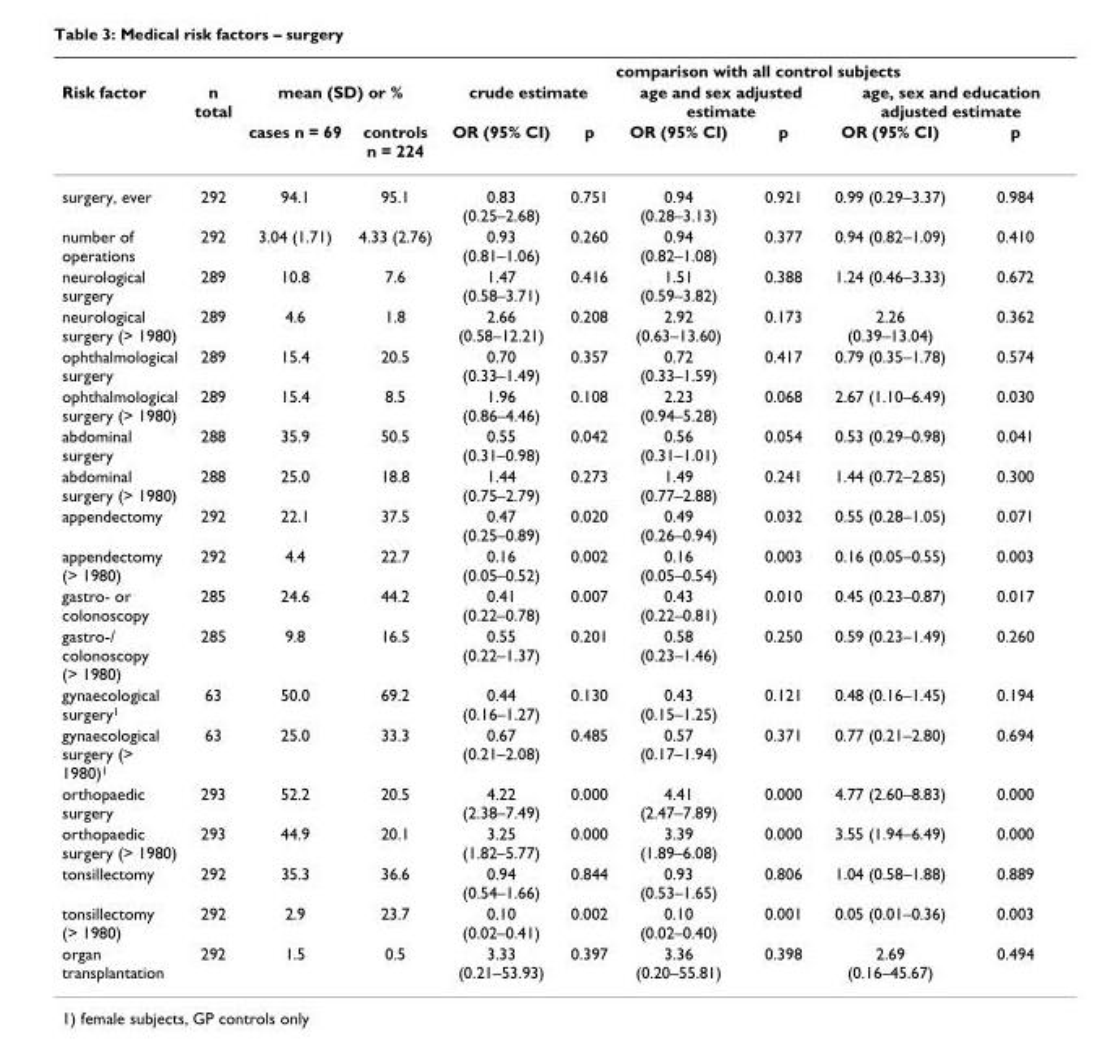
<table><thead><tr><td rowspan="3">Risk factor</td><td rowspan="3">n total</td><td></td><td></td><td colspan="6">comparison with all control subjects</td></tr><tr><td colspan="2">mean (SD) or %</td><td colspan="2">crude estimate</td><td colspan="2">age and sex adjusted estimate</td><td colspan="2">age, sex and education adjusted estimate</td></tr><tr><td>cases n = 69</td><td>controls n = 224</td><td>OR (95% CI)</td><td>p</td><td>OR (95% CI)</td><td>p</td><td>OR (95% CI)</td><td>p</td></tr></thead><tbody><tr><td>surgery, ever</td><td>292</td><td>94.1</td><td>95.1</td><td>0.83 (0.25–2.68)</td><td>0.751</td><td>0.94 (0.28–3.13)</td><td>0.921</td><td>0.99 (0.29–3.37)</td><td>0.984</td></tr><tr><td>number of operations</td><td>292</td><td>3.04 (1.71)</td><td>4.33 (2.76)</td><td>0.93 (0.81–1.06)</td><td>0.260</td><td>0.94 (0.82–1.08)</td><td>0.377</td><td>0.94 (0.82–1.09)</td><td>0.410</td></tr><tr><td>neurological surgery</td><td>289</td><td>10.8</td><td>7.6</td><td>1.47 (0.58–3.71)</td><td>0.416</td><td>1.51 (0.59–3.82)</td><td>0.388</td><td>1.24 (0.46–3.33)</td><td>0.672</td></tr><tr><td>neurological surgery (&gt; 1980)</td><td>289</td><td>4.6</td><td>1.8</td><td>2.66 (0.58–12.21)</td><td>0.208</td><td>2.92 (0.63–13.60)</td><td>0.173</td><td>2.26 (0.39–13.04)</td><td>0.362</td></tr><tr><td>ophthalmological surgery</td><td>289</td><td>15.4</td><td>20.5</td><td>0.70 (0.33–1.49)</td><td>0.357</td><td>0.72 (0.33–1.59)</td><td>0.417</td><td>0.79 (0.35–1.78)</td><td>0.574</td></tr><tr><td>ophthalmological surgery (&gt; 1980)</td><td>289</td><td>15.4</td><td>8.5</td><td>1.96 (0.86–4.46)</td><td>0.108</td><td>2.23 (0.94–5.28)</td><td>0.068</td><td>2.67 (1.10–6.49)</td><td>0.030</td></tr><tr><td>abdominal surgery</td><td>288</td><td>35.9</td><td>50.5</td><td>0.55 (0.31–0.98)</td><td>0.042</td><td>0.56 (0.31–1.01)</td><td>0.054</td><td>0.53 (0.29–0.98)</td><td>0.041</td></tr><tr><td>abdominal surgery (&gt; 1980)</td><td>288</td><td>25.0</td><td>18.8</td><td>1.44 (0.75–2.79)</td><td>0.273</td><td>1.49 (0.77–2.88)</td><td>0.241</td><td>1.44 (0.72–2.85)</td><td>0.300</td></tr><tr><td>appendectomy</td><td>292</td><td>22.1</td><td>37.5</td><td>0.47 (0.25–0.89)</td><td>0.020</td><td>0.49 (0.26–0.94)</td><td>0.032</td><td>0.55 (0.28–1.05)</td><td>0.071</td></tr><tr><td>appendectomy (&gt; 1980)</td><td>292</td><td>4.4</td><td>22.7</td><td>0.16 (0.05–0.52)</td><td>0.002</td><td>0.16 (0.05–0.54)</td><td>0.003</td><td>0.16 (0.05–0.55)</td><td>0.003</td></tr><tr><td>gastro- or colonoscopy</td><td>285</td><td>24.6</td><td>44.2</td><td>0.41 (0.22–0.78)</td><td>0.007</td><td>0.43 (0.22–0.81)</td><td>0.010</td><td>0.45 (0.23–0.87)</td><td>0.017</td></tr><tr><td>gastro-/ colonoscopy (&gt; 1980)</td><td>285</td><td>9.8</td><td>16.5</td><td>0.55 (0.22–1.37)</td><td>0.201</td><td>0.58 (0.23–1.46)</td><td>0.250</td><td>0.59 (0.23–1.49)</td><td>0.260</td></tr><tr><td>gynaecological surgery<sup>1</sup></td><td>63</td><td>50.0</td><td>69.2</td><td>0.44 (0.16–1.27)</td><td>0.130</td><td>0.43 (0.15–1.25)</td><td>0.121</td><td>0.48 (0.16–1.45)</td><td>0.194</td></tr><tr><td>gynaecological surgery (&gt; 1980)<sup>1</sup></td><td>63</td><td>25.0</td><td>33.3</td><td>0.67 (0.21–2.08)</td><td>0.485</td><td>0.57 (0.17–1.94)</td><td>0.371</td><td>0.77 (0.21–2.80)</td><td>0.694</td></tr><tr><td>orthopaedic surgery</td><td>293</td><td>52.2</td><td>20.5</td><td>4.22 (2.38–7.49)</td><td>0.000</td><td>4.41 (2.47–7.89)</td><td>0.000</td><td>4.77 (2.60–8.83)</td><td>0.000</td></tr><tr><td>orthopaedic surgery (&gt; 1980)</td><td>293</td><td>44.9</td><td>20.1</td><td>3.25 (1.82–5.77)</td><td>0.000</td><td>3.39 (1.89–6.08)</td><td>0.000</td><td>3.55 (1.94–6.49)</td><td>0.000</td></tr><tr><td>tonsillectomy</td><td>292</td><td>35.3</td><td>36.6</td><td>0.94 (0.54–1.66)</td><td>0.844</td><td>0.93 (0.53–1.65)</td><td>0.806</td><td>1.04 (0.58–1.88)</td><td>0.889</td></tr><tr><td>tonsillectomy (&gt; 1980)</td><td>292</td><td>2.9</td><td>23.7</td><td>0.10 (0.02–0.41)</td><td>0.002</td><td>0.10 (0.02–0.40)</td><td>0.001</td><td>0.05 (0.01–0.36)</td><td>0.003</td></tr><tr><td>organ transplantation</td><td>292</td><td>1.5</td><td>0.5</td><td>3.33 (0.21–53.93)</td><td>0.397</td><td>3.36 (0.20–55.81)</td><td>0.398</td><td>2.69 (0.16–45.67)</td><td>0.494</td></tr></tbody></table>